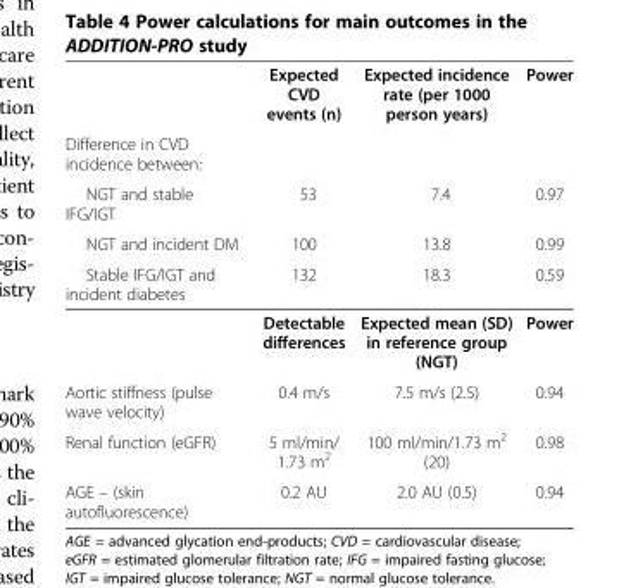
<table><thead><tr><td></td><td>Expected CVD events (n)</td><td>Expected incidence rate (per 1000 person years)</td><td>Power</td></tr></thead><tbody><tr><td colspan="4">Difference in CVD incidence between:</td></tr><tr><td>NGT and stable IFG/IGT</td><td>53</td><td>7.4</td><td>0.97</td></tr><tr><td>NGT and incident DM</td><td>100</td><td>13.8</td><td>0.99</td></tr><tr><td rowspan="2">Stable IFG/IGT and incident diabetes</td><td>132</td><td>18.3</td><td>0.59</td></tr><tr><td>Detectable differences</td><td>Expected mean (SD) in reference group (NGT)</td><td>Power</td></tr><tr><td>Aortic stiffness (pulse wave velocity)</td><td>0.4 m/s</td><td>7.5 m/s (2.5)</td><td>0.94</td></tr><tr><td>Renal function (eGFR)</td><td>5 ml/min/ 1.73 m<sup>2</sup></td><td>100 ml/min/1.73 m<sup>2</sup> (20)</td><td>0.98</td></tr><tr><td>AGE – (skin autofluorescence)</td><td>0.2 AU</td><td>2.0 AU (0.5)</td><td>0.94</td></tr></tbody></table>